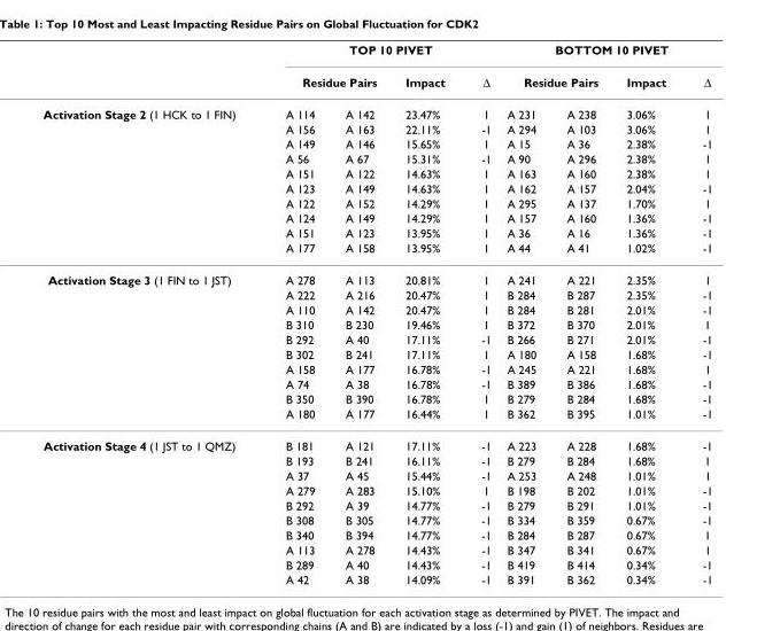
<table><thead><tr><td rowspan="3">Activation Stage 2 (1 HCK to 1 FIN)</td><td colspan="4">TOP 10 PIVET</td><td colspan="4">BOTTOM 10 PIVET</td></tr><tr><td colspan="2">Residue Pairs</td><td rowspan="2">Impact 23.47%</td><td rowspan="2">Δ 1</td><td colspan="2">Residue Pairs</td><td rowspan="2">Impact 3.06%</td><td rowspan="2">Δ 1</td></tr><tr><td>A 114</td><td>A 142</td><td>A 231</td><td>A 238</td></tr></thead><tbody><tr><td></td><td>A 156</td><td>A 163</td><td>22.11%</td><td>-1</td><td>A 294</td><td>A 103</td><td>3.06%</td><td>1</td></tr><tr><td></td><td>A 149</td><td>A 146</td><td>15.65%</td><td>1</td><td>A 15</td><td>A 36</td><td>2.38%</td><td>-1</td></tr><tr><td></td><td>A 56</td><td>A 67</td><td>15.31%</td><td>-1</td><td>A 90</td><td>A 296</td><td>2.38%</td><td>1</td></tr><tr><td></td><td>A 151</td><td>A 122</td><td>14.63%</td><td>1</td><td>A 163</td><td>A 160</td><td>2.38%</td><td>1</td></tr><tr><td></td><td>A 123</td><td>A 149</td><td>14.63%</td><td>1</td><td>A 162</td><td>A 157</td><td>2.04%</td><td>-1</td></tr><tr><td></td><td>A 122</td><td>A 152</td><td>14.29%</td><td>1</td><td>A 295</td><td>A 137</td><td>1.70%</td><td>1</td></tr><tr><td></td><td>A 124</td><td>A 149</td><td>14.29%</td><td>1</td><td>A 157</td><td>A 160</td><td>1.36%</td><td>-1</td></tr><tr><td></td><td>A 151</td><td>A 123</td><td>13.95%</td><td>1</td><td>A 36</td><td>A 16</td><td>1.36%</td><td>-1</td></tr><tr><td></td><td>A 177</td><td>A 158</td><td>13.95%</td><td>1</td><td>A 44</td><td>A 41</td><td>1.02%</td><td>-1</td></tr><tr><td rowspan="10">Activation Stage 3 (1 FIN to 1 JST)</td><td>A 278</td><td>A 113</td><td>20.81%</td><td>1</td><td>A 241</td><td>A 221</td><td>2.35%</td><td>1</td></tr><tr><td>A 222</td><td>A 216</td><td>20.47%</td><td>1</td><td>B 284</td><td>B 287</td><td>2.35%</td><td>-1</td></tr><tr><td>A 110</td><td>A 142</td><td>20.47%</td><td>1</td><td>B 284</td><td>B 281</td><td>2.01%</td><td>-1</td></tr><tr><td>B 310</td><td>B 230</td><td>19.46%</td><td>1</td><td>B 372</td><td>B 370</td><td>2.01%</td><td>1</td></tr><tr><td>B 292</td><td>A 40</td><td>17.11%</td><td>-1</td><td>B 266</td><td>B 271</td><td>2.01%</td><td>-1</td></tr><tr><td>B 302</td><td>B 241</td><td>17.11%</td><td>1</td><td>A 180</td><td>A 158</td><td>1.68%</td><td>-1</td></tr><tr><td>A 158</td><td>A 177</td><td>16.78%</td><td>-1</td><td>A 245</td><td>A 221</td><td>1.68%</td><td>1</td></tr><tr><td>A 74</td><td>A 38</td><td>16.78%</td><td>-1</td><td>B 389</td><td>B 386</td><td>1.68%</td><td>-1</td></tr><tr><td>B 350</td><td>B 390</td><td>16.78%</td><td>1</td><td>B 279</td><td>B 284</td><td>1.68%</td><td>-1</td></tr><tr><td>A 180</td><td>A 177</td><td>16.44%</td><td>1</td><td>B 362</td><td>B 395</td><td>1.01%</td><td>-1</td></tr><tr><td rowspan="10">Activation Stage 4 (1 JST to 1 QMZ)</td><td>B 181</td><td>A 121</td><td>17.11%</td><td>-1</td><td>A 223</td><td>A 228</td><td>1.68%</td><td>-1</td></tr><tr><td>B 193</td><td>B 241</td><td>16.11%</td><td>-1</td><td>B 279</td><td>B 284</td><td>1.68%</td><td>1</td></tr><tr><td>A 37</td><td>A 45</td><td>15.44%</td><td>-1</td><td>A 253</td><td>A 248</td><td>1.01%</td><td>1</td></tr><tr><td>A 279</td><td>A 283</td><td>15.10%</td><td>1</td><td>B 198</td><td>B 202</td><td>1.01%</td><td>-1</td></tr><tr><td>B 292</td><td>A 39</td><td>14.77%</td><td>-1</td><td>B 279</td><td>B 291</td><td>1.01%</td><td>-1</td></tr><tr><td>B 308</td><td>B 305</td><td>14.77%</td><td>-1</td><td>B 334</td><td>B 359</td><td>0.67%</td><td>-1</td></tr><tr><td>B 340</td><td>B 394</td><td>14.77%</td><td>-1</td><td>B 284</td><td>B 287</td><td>0.67%</td><td>1</td></tr><tr><td>A 113</td><td>A 278</td><td>14.43%</td><td>-1</td><td>B 347</td><td>B 341</td><td>0.67%</td><td>1</td></tr><tr><td>B 289</td><td>A 40</td><td>14.43%</td><td>-1</td><td>B 419</td><td>B 414</td><td>0.34%</td><td>-1</td></tr><tr><td>A 42</td><td>A 38</td><td>14.09%</td><td>-1</td><td>B 391</td><td>B 362</td><td>0.34%</td><td>-1</td></tr></tbody></table>